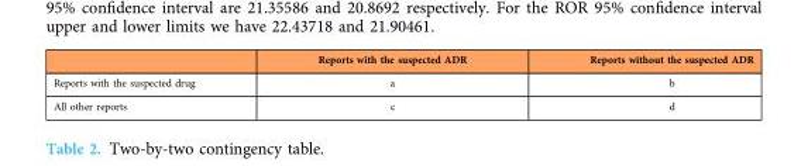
<table><thead><tr><td></td><td>Reports with the suspected ADR</td><td>Reports without the suspected ADR</td></tr></thead><tbody><tr><td>Reports with the suspected drug</td><td>a</td><td>b</td></tr><tr><td>All other reports</td><td>c</td><td>d</td></tr></tbody></table>